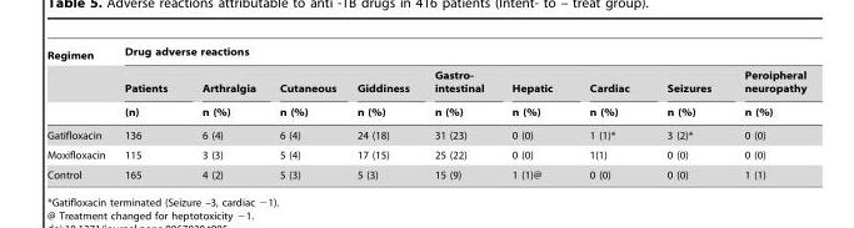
<table><thead><tr><td rowspan="3">Regimen</td><td colspan="9">Drug adverse reactions</td></tr><tr><td rowspan="2">Patients (n)</td><td rowspan="2">Arthralgia n (%)</td><td rowspan="2">Cutaneous n (%)</td><td rowspan="2">Giddiness n (%)</td><td rowspan="2">Gastro- intestinal n (%)</td><td rowspan="2">Hepatic n (%)</td><td rowspan="2">Cardiac n (%)</td><td rowspan="2">Seizures n (%)</td><td rowspan="2">Peroipheral neuropathy n (%)</td></tr><tr></tr></thead><tbody><tr><td>Gatifloxacin</td><td>136</td><td>6 (4)</td><td>6 (4)</td><td>24 (18)</td><td>31 (23)</td><td>0 (0)</td><td>1 (1)*</td><td>3 (2)*</td><td>0 (0)</td></tr><tr><td>Moxifloxacin</td><td>115</td><td>3 (3)</td><td>5 (4)</td><td>17 (15)</td><td>25 (22)</td><td>0 (0)</td><td>1(1)</td><td>0 (0)</td><td>0 (0)</td></tr><tr><td>Control</td><td>165</td><td>4 (2)</td><td>5 (3)</td><td>5 (3)</td><td>15 (9)</td><td>1 (1)@</td><td>0 (0)</td><td>0 (0)</td><td>1 (1)</td></tr></tbody></table>